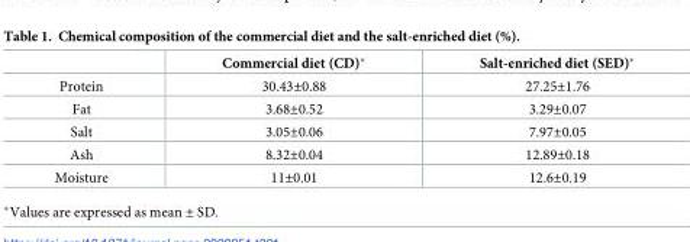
<table><thead><tr><td></td><td>Commercial diet (CD)*</td><td>Salt-enriched diet (SED)*</td></tr></thead><tbody><tr><td>Protein</td><td>30.43±0.88</td><td>27.25±1.76</td></tr><tr><td>Fat</td><td>3.68±0.52</td><td>3.29±0.07</td></tr><tr><td>Salt</td><td>3.05±0.06</td><td>7.97±0.05</td></tr><tr><td>Ash</td><td>8.32±0.04</td><td>12.89±0.18</td></tr><tr><td>Moisture</td><td>11±0.01</td><td>12.6±0.19</td></tr></tbody></table>